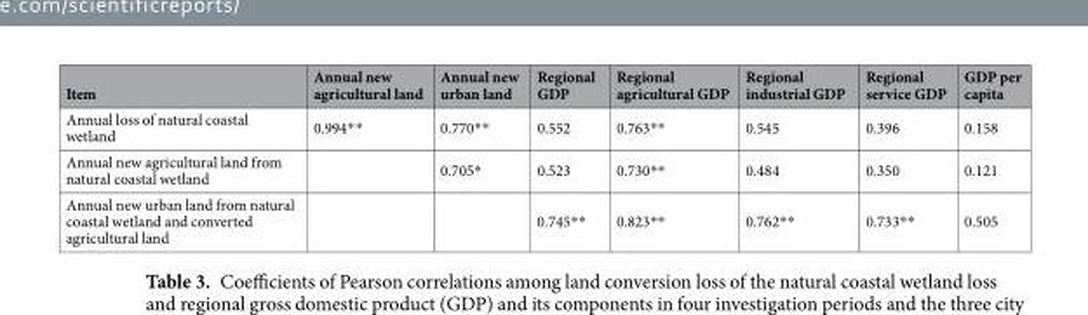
<table><thead><tr><td>Item</td><td>Annual new agricultural land</td><td>Annual new urban land</td><td>Regional GDP</td><td>Regional agricultural GDP</td><td>Regional industrial GDP</td><td>Regional service GDP</td><td>GDP per capita</td></tr></thead><tbody><tr><td>Annual loss of natural coastal wetland</td><td>0.994**</td><td>0.770**</td><td>0.552</td><td>0.763**</td><td>0.545</td><td>0.396</td><td>0.158</td></tr><tr><td>Annual new agricultural land from natural coastal wetland</td><td></td><td>0.705*</td><td>0.523</td><td>0.730**</td><td>0.484</td><td>0.350</td><td>0.121</td></tr><tr><td>Annual new urban land from natural coastal wetland and converted agricultural land</td><td></td><td></td><td>0.745**</td><td>0.823**</td><td>0.762**</td><td>0.733**</td><td>0.505</td></tr></tbody></table>